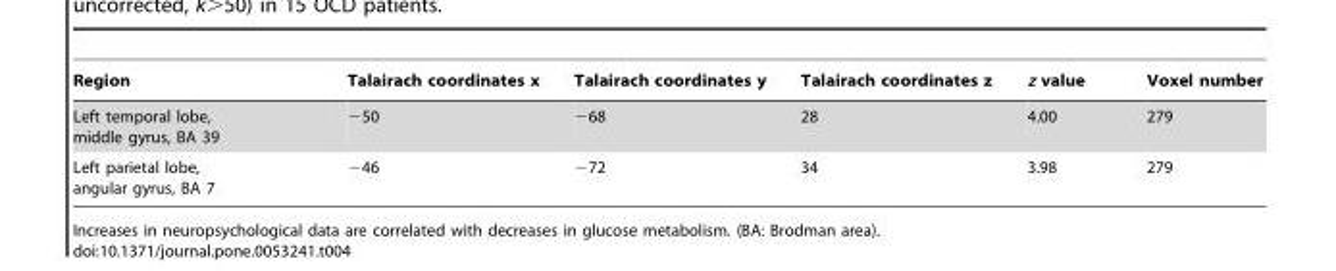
<table><thead><tr><td>Region</td><td>Talairach coordinates x</td><td>Talairach coordinates y</td><td>Talairach coordinates z</td><td>z value</td><td>Voxel number</td></tr></thead><tbody><tr><td>Left temporal lobe, middle gyrus, BA 39</td><td>−50</td><td>−68</td><td>28</td><td>4.00</td><td>279</td></tr><tr><td>Left parietal lobe, angular gyrus, BA 7</td><td>−46</td><td>−72</td><td>34</td><td>3.98</td><td>279</td></tr></tbody></table>